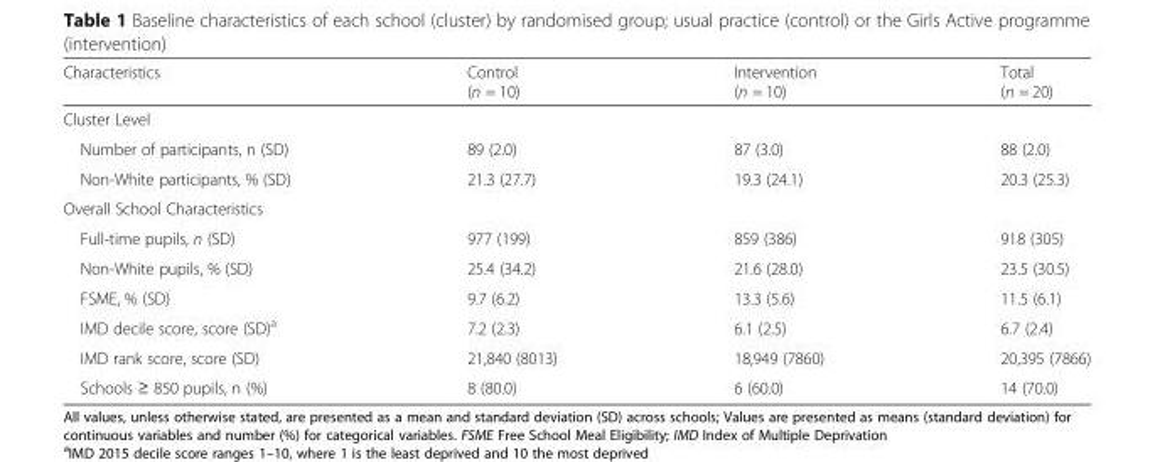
<table><thead><tr><td>Characteristics</td><td>Control (n = 10)</td><td>Intervention (n = 10)</td><td>Total (n = 20)</td></tr></thead><tbody><tr><td colspan="4">Cluster Level</td></tr><tr><td>Number of participants, n (SD)</td><td>89 (2.0)</td><td>87 (3.0)</td><td>88 (2.0)</td></tr><tr><td>Non-White participants, % (SD)</td><td>21.3 (27.7)</td><td>19.3 (24.1)</td><td>20.3 (25.3)</td></tr><tr><td colspan="4">Overall School Characteristics</td></tr><tr><td>Full-time pupils, n (SD)</td><td>977 (199)</td><td>859 (386)</td><td>918 (305)</td></tr><tr><td>Non-White pupils, % (SD)</td><td>25.4 (34.2)</td><td>21.6 (28.0)</td><td>23.5 (30.5)</td></tr><tr><td>FSME, % (SD)</td><td>9.7 (6.2)</td><td>13.3 (5.6)</td><td>11.5 (6.1)</td></tr><tr><td>IMD decile score, score (SD)<sup>a</sup></td><td>7.2 (2.3)</td><td>6.1 (2.5)</td><td>6.7 (2.4)</td></tr><tr><td>IMD rank score, score (SD)</td><td>21,840 (8013)</td><td>18,949 (7860)</td><td>20,395 (7866)</td></tr><tr><td>Schools ≥ 850 pupils, n (%)</td><td>8 (80.0)</td><td>6 (60.0)</td><td>14 (70.0)</td></tr></tbody></table>